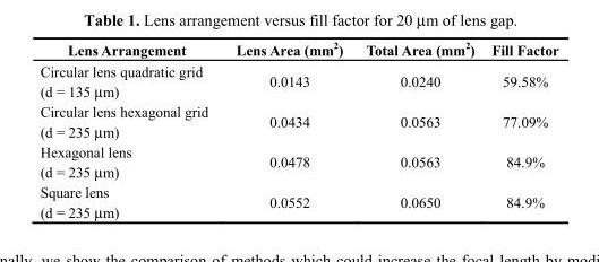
<table><thead><tr><td>Lens Arrangement</td><td>Lens Area (mm<sup>2</sup>)</td><td>Total Area (mm<sup>2</sup>)</td><td>Fill Factor</td></tr></thead><tbody><tr><td>Circular lens quadratic grid (d = 135 μm)</td><td>0.0143</td><td>0.0240</td><td>59.58%</td></tr><tr><td>Circular lens hexagonal grid (d = 235 μm)</td><td>0.0434</td><td>0.0563</td><td>77.09%</td></tr><tr><td>Hexagonal lens (d = 235 μm)</td><td>0.0478</td><td>0.0563</td><td>84.9%</td></tr><tr><td>Square lens (d = 235 μm)</td><td>0.0552</td><td>0.0650</td><td>84.9%</td></tr></tbody></table>